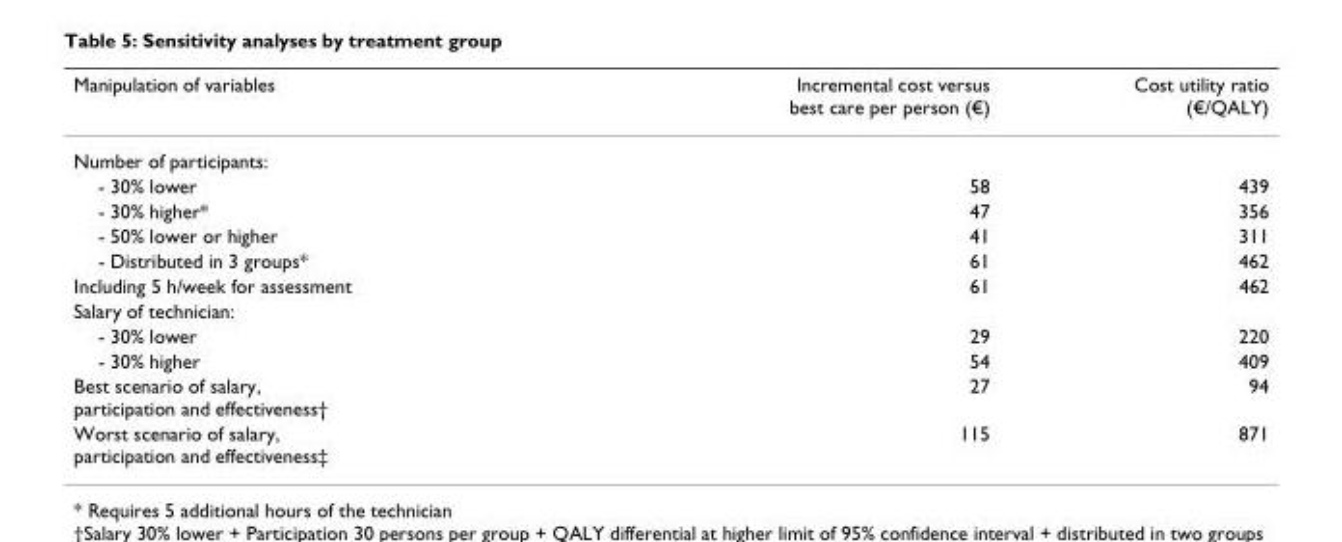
<table><thead><tr><td>Manipulation of variables</td><td>Incremental cost versus best care per person (€)</td><td>Cost utility ratio (€/QALY)</td></tr></thead><tbody><tr><td colspan="3">Number of participants:</td></tr><tr><td>- 30% lower</td><td>58</td><td>439</td></tr><tr><td>- 30% higher*</td><td>47</td><td>356</td></tr><tr><td>- 50% lower or higher</td><td>41</td><td>311</td></tr><tr><td>- Distributed in 3 groups*</td><td>61</td><td>462</td></tr><tr><td>Including 5 h/week for assessment</td><td>61</td><td>462</td></tr><tr><td colspan="3">Salary of technician:</td></tr><tr><td>- 30% lower</td><td>29</td><td>220</td></tr><tr><td>- 30% higher</td><td>54</td><td>409</td></tr><tr><td>Best scenario of salary, participation and effectiveness†</td><td>27</td><td>94</td></tr><tr><td>Worst scenario of salary, participation and effectiveness‡</td><td>115</td><td>871</td></tr></tbody></table>